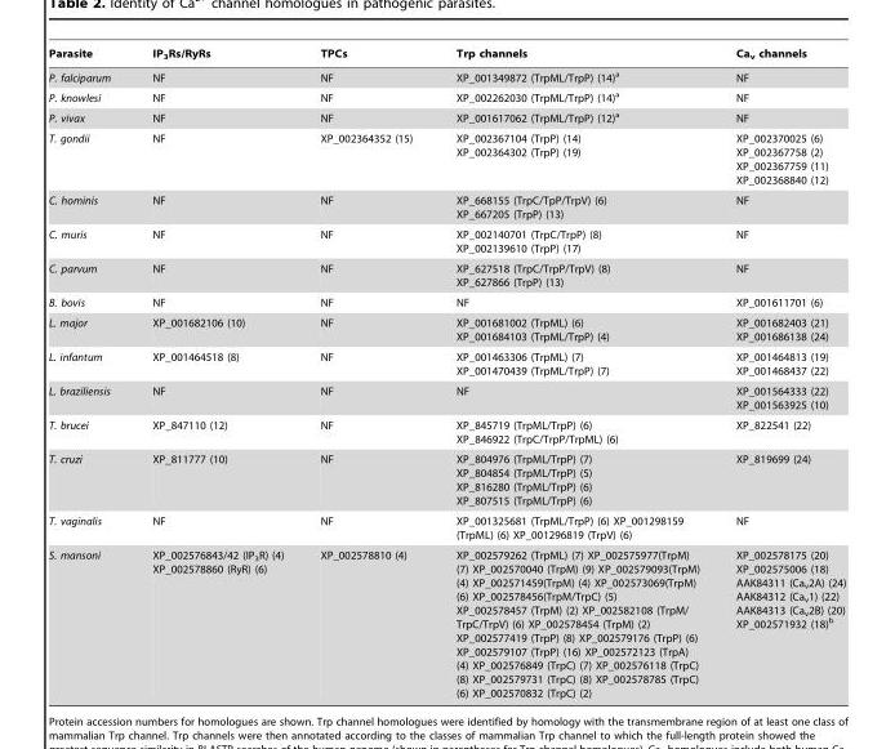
<table><thead><tr><td>Parasite</td><td>IP<sub>3</sub>Rs/RyRs</td><td>TPCs</td><td>Trp channels</td><td>Ca<sub>v</sub> channels</td></tr></thead><tbody><tr><td>P. falciparum</td><td>NF</td><td>NF</td><td>XP_001349872 (TrpML/TrpP) (14)<sup>a</sup></td><td>NF</td></tr><tr><td>P. knowlesi</td><td>NF</td><td>NF</td><td>XP_002262030 (TrpML/TrpP) (14)<sup>a</sup></td><td>NF</td></tr><tr><td>P. vivax</td><td>NF</td><td>NF</td><td>XP_001617062 (TrpML/TrpP) (12)<sup>a</sup></td><td>NF</td></tr><tr><td>T. gondii</td><td>NF</td><td>XP_002364352 (15)</td><td>XP_002367104 (TrpP) (14) XP_002364302 (TrpP) (19)</td><td>XP_002370025 (6) XP_002367758 (2) XP_002367759 (11) XP_002368840 (12)</td></tr><tr><td>C. hominis</td><td>NF</td><td>NF</td><td>XP_668155 (TrpC/TpP/TrpV) (6) XP_667205 (TrpP) (13)</td><td>NF</td></tr><tr><td>C. muris</td><td>NF</td><td>NF</td><td>XP_002140701 (TrpC/TrpP) (8) XP_002139610 (TrpP) (17)</td><td>NF</td></tr><tr><td>C. parvum</td><td>NF</td><td>NF</td><td>XP_627518 (TrpC/TrpP/TrpV) (8) XP_627866 (TrpP) (13)</td><td>NF</td></tr><tr><td>B. bovis</td><td>NF</td><td>NF</td><td>NF</td><td>XP_001611701 (6)</td></tr><tr><td>L. major</td><td>XP_001682106 (10)</td><td>NF</td><td>XP_001681002 (TrpML) (6) XP_001684103 (TrpML/TrpP) (4)</td><td>XP_001682403 (21) XP_001686138 (24)</td></tr><tr><td>L. infantum</td><td>XP_001464518 (8)</td><td>NF</td><td>XP_001463306 (TrpML) (7) XP_001470439 (TrpML/TrpP) (7)</td><td>XP_001464813 (19) XP_001468437 (22)</td></tr><tr><td>L. braziliensis</td><td>NF</td><td>NF</td><td>NF</td><td>XP_001564333 (22) XP_001563925 (10)</td></tr><tr><td>T. brucei</td><td>XP_847110 (12)</td><td>NF</td><td>XP_845719 (TrpML/TrpP) (6) XP_846922 (TrpC/TrpP/TrpML) (6)</td><td>XP_822541 (22)</td></tr><tr><td>T. cruzi</td><td>XP_811777 (10)</td><td>NF</td><td>XP_804976 (TrpML/TrpP) (7) XP_804854 (TrpML/TrpP) (5) XP_816280 (TrpML/TrpP) (6) XP_807515 (TrpML/TrpP) (6)</td><td>XP_819699 (24)</td></tr><tr><td>T. vaginalis</td><td>NF</td><td>NF</td><td>XP_001325681 (TrpML/TrpP) (6) XP_001298159 (TrpML) (6) XP_001296819 (TrpV) (6)</td><td>NF</td></tr><tr><td>S. mansoni</td><td>XP_002576843/42 (IP<sub>3</sub>R) (4) XP_002578860 (RyR) (6)</td><td>XP_002578810 (4)</td><td>XP_002579262 (TrpML) (7) XP_002575977(TrpM) (7) XP_002570040 (TrpM) (9) XP_002579093(TrpM) (4) XP_002571459(TrpM) (4) XP_002573069(TrpM) (6) XP_002578456(TrpM/TrpC) (5) XP_002578457 (TrpM) (2) XP_002582108 (TrpM/ TrpC/TrpV) (6) XP_002578454 (TrpM) (2) XP_002577419 (TrpP) (8) XP_002579176 (TrpP) (6) XP_002579107 (TrpP) (16) XP_002572123 (TrpA) (4) XP_002576849 (TrpC) (7) XP_002576118 (TrpC) (8) XP_002579731 (TrpC) (8) XP_002578785 (TrpC) (6) XP_002570832 (TrpC) (2)</td><td>XP_002578175 (20) XP_002575006 (18) AAK84311 (Ca<sub>v</sub>2A) (24) AAK84312 (Ca<sub>v</sub>1) (22) AAK84313 (Ca<sub>v</sub>2B) (20) XP_002571932 (18)<sup>b</sup></td></tr></tbody></table>